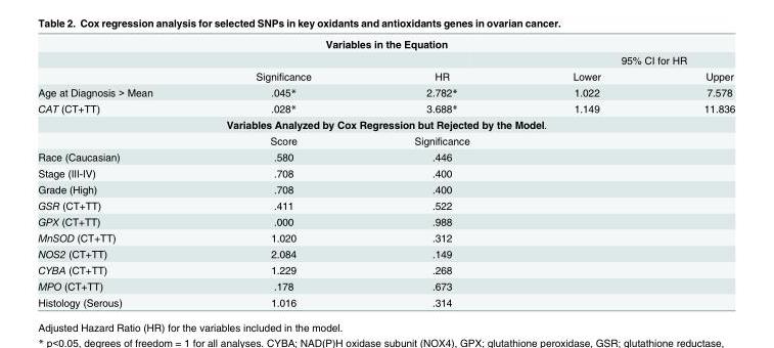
<table><tbody><tr><td colspan="5">Variables in the Equation</td></tr><tr><td></td><td></td><td></td><td colspan="2">95% CI for HR</td></tr><tr><td></td><td>Significance</td><td>HR</td><td>Lower</td><td>Upper</td></tr><tr><td>Age at Diagnosis &gt; Mean</td><td>.045*</td><td>2.782*</td><td>1.022</td><td>7.578</td></tr><tr><td>CAT (CT+TT)</td><td>.028*</td><td>3.688*</td><td>1.149</td><td>11.836</td></tr><tr><td colspan="5">Variables Analyzed by Cox Regression but Rejected by the Model.</td></tr><tr><td></td><td>Score</td><td>Significance</td><td></td><td></td></tr><tr><td>Race (Caucasian)</td><td>.580</td><td>.446</td><td></td><td></td></tr><tr><td>Stage (III-IV)</td><td>.708</td><td>.400</td><td></td><td></td></tr><tr><td>Grade (High)</td><td>.708</td><td>.400</td><td></td><td></td></tr><tr><td>GSR (CT+TT)</td><td>.411</td><td>.522</td><td></td><td></td></tr><tr><td>GPX (CT+TT)</td><td>.000</td><td>.988</td><td></td><td></td></tr><tr><td>MnSOD (CT+TT)</td><td>1.020</td><td>.312</td><td></td><td></td></tr><tr><td>NOS2 (CT+TT)</td><td>2.084</td><td>.149</td><td></td><td></td></tr><tr><td>CYBA (CT+TT)</td><td>1.229</td><td>.268</td><td></td><td></td></tr><tr><td>MPO (CT+TT)</td><td>.178</td><td>.673</td><td></td><td></td></tr><tr><td>Histology (Serous)</td><td>1.016</td><td>.314</td><td></td><td></td></tr></tbody></table>